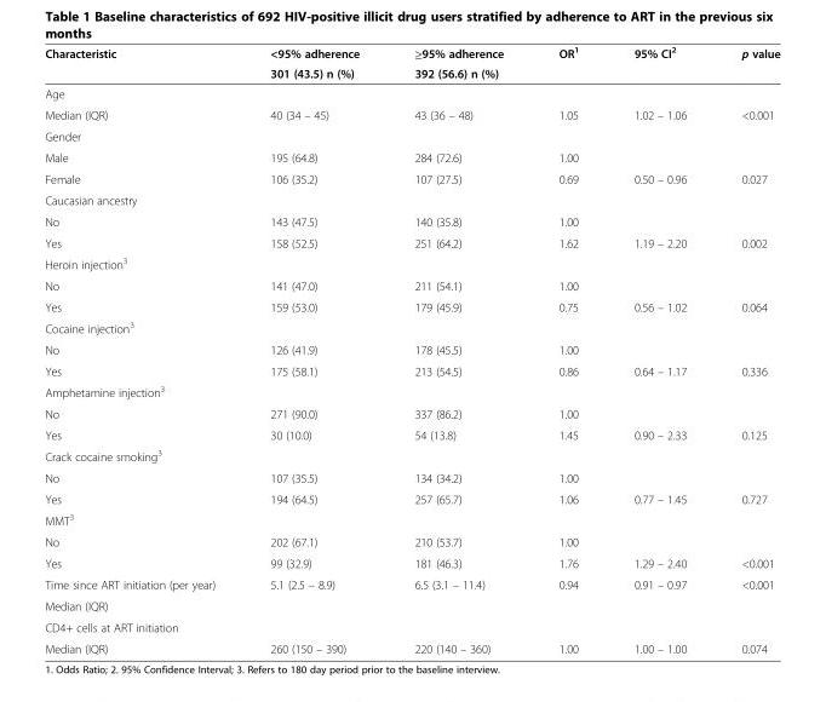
<table><thead><tr><td rowspan="2">Characteristic</td><td rowspan="2">&lt;95% adherence 301 (43.5) n (%)</td><td rowspan="2">≥95% adherence 392 (56.6) n (%)</td><td rowspan="2">OR<sup>1</sup></td><td rowspan="2">95% CI<sup>2</sup></td><td rowspan="2">p value</td></tr><tr></tr></thead><tbody><tr><td colspan="6">Age</td></tr><tr><td>Median (IQR)</td><td>40 (34 – 45)</td><td>43 (36 – 48)</td><td>1.05</td><td>1.02 – 1.06</td><td>&lt;0.001</td></tr><tr><td colspan="6">Gender</td></tr><tr><td>Male</td><td>195 (64.8)</td><td>284 (72.6)</td><td>1.00</td><td></td><td></td></tr><tr><td>Female</td><td>106 (35.2)</td><td>107 (27.5)</td><td>0.69</td><td>0.50 – 0.96</td><td>0.027</td></tr><tr><td colspan="6">Caucasian ancestry</td></tr><tr><td>No</td><td>143 (47.5)</td><td>140 (35.8)</td><td>1.00</td><td></td><td></td></tr><tr><td>Yes</td><td>158 (52.5)</td><td>251 (64.2)</td><td>1.62</td><td>1.19 – 2.20</td><td>0.002</td></tr><tr><td colspan="6">Heroin injection<sup>3</sup></td></tr><tr><td>No</td><td>141 (47.0)</td><td>211 (54.1)</td><td>1.00</td><td></td><td></td></tr><tr><td>Yes</td><td>159 (53.0)</td><td>179 (45.9)</td><td>0.75</td><td>0.56 – 1.02</td><td>0.064</td></tr><tr><td colspan="6">Cocaine injection<sup>3</sup></td></tr><tr><td>No</td><td>126 (41.9)</td><td>178 (45.5)</td><td>1.00</td><td></td><td></td></tr><tr><td>Yes</td><td>175 (58.1)</td><td>213 (54.5)</td><td>0.86</td><td>0.64 – 1.17</td><td>0.336</td></tr><tr><td colspan="6">Amphetamine injection<sup>3</sup></td></tr><tr><td>No</td><td>271 (90.0)</td><td>337 (86.2)</td><td>1.00</td><td></td><td></td></tr><tr><td>Yes</td><td>30 (10.0)</td><td>54 (13.8)</td><td>1.45</td><td>0.90 – 2.33</td><td>0.125</td></tr><tr><td colspan="6">Crack cocaine smoking<sup>3</sup></td></tr><tr><td>No</td><td>107 (35.5)</td><td>134 (34.2)</td><td>1.00</td><td></td><td></td></tr><tr><td>Yes</td><td>194 (64.5)</td><td>257 (65.7)</td><td>1.06</td><td>0.77 – 1.45</td><td>0.727</td></tr><tr><td colspan="6">MMT<sup>3</sup></td></tr><tr><td>No</td><td>202 (67.1)</td><td>210 (53.7)</td><td>1.00</td><td></td><td></td></tr><tr><td>Yes</td><td>99 (32.9)</td><td>181 (46.3)</td><td>1.76</td><td>1.29 – 2.40</td><td>&lt;0.001</td></tr><tr><td>Time since ART initiation (per year)</td><td>5.1 (2.5 – 8.9)</td><td>6.5 (3.1 – 11.4)</td><td>0.94</td><td>0.91 – 0.97</td><td>&lt;0.001</td></tr><tr><td colspan="6">Median (IQR)</td></tr><tr><td colspan="6">CD4+ cells at ART initiation</td></tr><tr><td>Median (IQR)</td><td>260 (150 – 390)</td><td>220 (140 – 360)</td><td>1.00</td><td>1.00 – 1.00</td><td>0.074</td></tr></tbody></table>